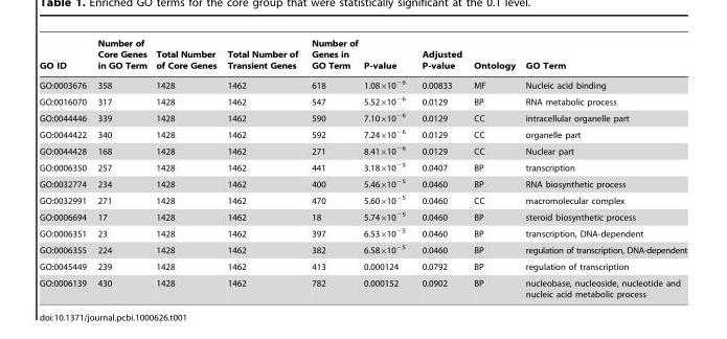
<table><thead><tr><td>GO ID</td><td>Number of Core Genes in GO Term</td><td>Total Number of Core Genes</td><td>Total Number of Transient Genes</td><td>Number of Genes in GO Term</td><td>P-value</td><td>Adjusted P-value</td><td>Ontology</td><td>GO Term</td></tr></thead><tbody><tr><td>GO:0003676</td><td>358</td><td>1428</td><td>1462</td><td>618</td><td>1.08×10<sup>−6</sup></td><td>0.00833</td><td>MF</td><td>Nucleic acid binding</td></tr><tr><td>GO:0016070</td><td>317</td><td>1428</td><td>1462</td><td>547</td><td>5.52×10<sup>−6</sup></td><td>0.0129</td><td>BP</td><td>RNA metabolic process</td></tr><tr><td>GO:0044446</td><td>339</td><td>1428</td><td>1462</td><td>590</td><td>7.10×10<sup>−6</sup></td><td>0.0129</td><td>CC</td><td>intracellular organelle part</td></tr><tr><td>GO:0044422</td><td>340</td><td>1428</td><td>1462</td><td>592</td><td>7.24×10<sup>−6</sup></td><td>0.0129</td><td>CC</td><td>organelle part</td></tr><tr><td>GO:0044428</td><td>168</td><td>1428</td><td>1462</td><td>271</td><td>8.41×10<sup>−6</sup></td><td>0.0129</td><td>CC</td><td>Nuclear part</td></tr><tr><td>GO:0006350</td><td>257</td><td>1428</td><td>1462</td><td>441</td><td>3.18×10<sup>−5</sup></td><td>0.0407</td><td>BP</td><td>transcription</td></tr><tr><td>GO:0032774</td><td>234</td><td>1428</td><td>1462</td><td>400</td><td>5.46×10<sup>−5</sup></td><td>0.0460</td><td>BP</td><td>RNA biosynthetic process</td></tr><tr><td>GO:0032991</td><td>271</td><td>1428</td><td>1462</td><td>470</td><td>5.60×10<sup>−5</sup></td><td>0.0460</td><td>CC</td><td>macromolecular complex</td></tr><tr><td>GO:0006694</td><td>17</td><td>1428</td><td>1462</td><td>18</td><td>5.74×10<sup>−5</sup></td><td>0.0460</td><td>BP</td><td>steroid biosynthetic process</td></tr><tr><td>GO:0006351</td><td>23</td><td>1428</td><td>1462</td><td>397</td><td>6.53×10<sup>−5</sup></td><td>0.0460</td><td>BP</td><td>transcription, DNA-dependent</td></tr><tr><td>GO:0006355</td><td>224</td><td>1428</td><td>1462</td><td>382</td><td>6.58×10<sup>−5</sup></td><td>0.0460</td><td>BP</td><td>regulation of transcription, DNA-dependent</td></tr><tr><td>GO:0045449</td><td>239</td><td>1428</td><td>1462</td><td>413</td><td>0.000124</td><td>0.0792</td><td>BP</td><td>regulation of transcription</td></tr><tr><td>GO:0006139</td><td>430</td><td>1428</td><td>1462</td><td>782</td><td>0.000152</td><td>0.0902</td><td>BP</td><td>nucleobase, nucleoside, nucleotide and nucleic acid metabolic process</td></tr></tbody></table>